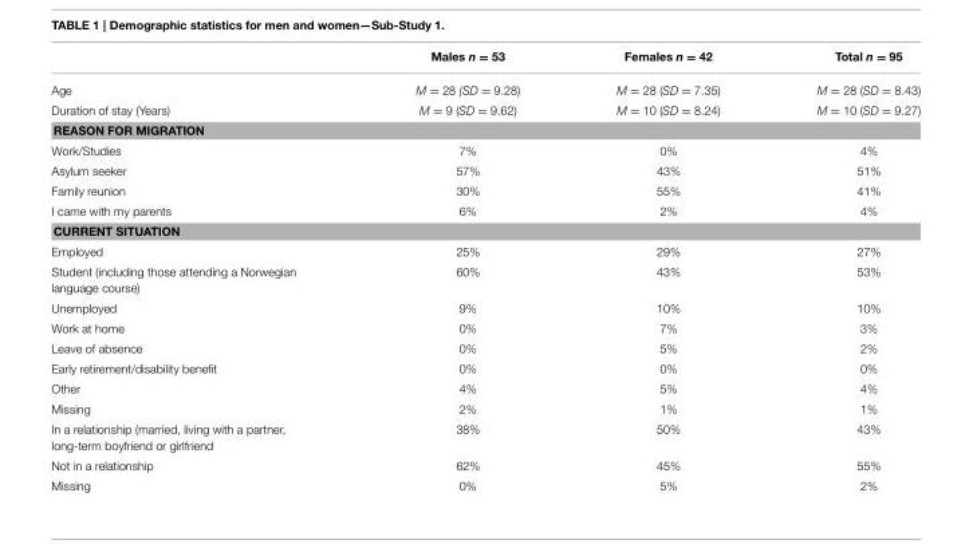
<table><thead><tr><td></td><td>Males n = 53</td><td>Females n = 42</td><td>Total n = 95</td></tr></thead><tbody><tr><td>Age</td><td>M = 28 (SD = 9.28)</td><td>M = 28 (SD = 7.35)</td><td>M = 28 (SD = 8.43)</td></tr><tr><td>Duration of stay (Years)</td><td>M = 9 (SD = 9.62)</td><td>M = 10 (SD = 8.24)</td><td>M = 10 (SD = 9.27)</td></tr><tr><td colspan="4">REASON FOR MIGRATION</td></tr><tr><td>Work/Studies</td><td>7%</td><td>0%</td><td>4%</td></tr><tr><td>Asylum seeker</td><td>57%</td><td>43%</td><td>51%</td></tr><tr><td>Family reunion</td><td>30%</td><td>55%</td><td>41%</td></tr><tr><td>I came with my parents</td><td>6%</td><td>2%</td><td>4%</td></tr><tr><td colspan="4">CURRENT SITUATION</td></tr><tr><td>Employed</td><td>25%</td><td>29%</td><td>27%</td></tr><tr><td>Student (including those attending a Norwegian language course)</td><td>60%</td><td>43%</td><td>53%</td></tr><tr><td>Unemployed</td><td>9%</td><td>10%</td><td>10%</td></tr><tr><td>Work at home</td><td>0%</td><td>7%</td><td>3%</td></tr><tr><td>Leave of absence</td><td>0%</td><td>5%</td><td>2%</td></tr><tr><td>Early retirement/disability benefit</td><td>0%</td><td>0%</td><td>0%</td></tr><tr><td>Other</td><td>4%</td><td>5%</td><td>4%</td></tr><tr><td>Missing</td><td>2%</td><td>1%</td><td>1%</td></tr><tr><td>In a relationship (married, living with a partner, long-term boyfriend or girlfriend</td><td>38%</td><td>50%</td><td>43%</td></tr><tr><td>Not in a relationship</td><td>62%</td><td>45%</td><td>55%</td></tr><tr><td>Missing</td><td>0%</td><td>5%</td><td>2%</td></tr></tbody></table>